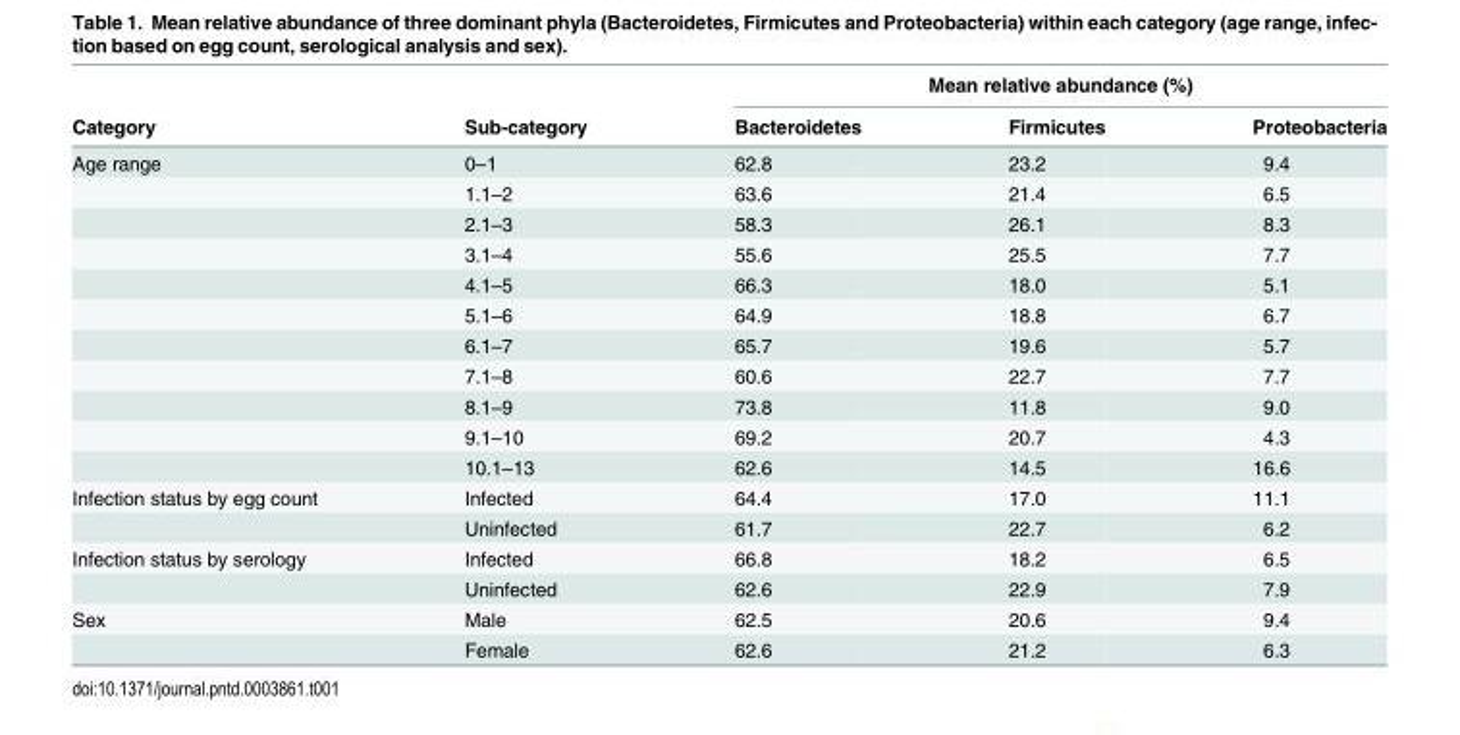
<table><thead><tr><td rowspan="2">Category</td><td rowspan="2">Sub-category</td><td colspan="3">Mean relative abundance (%)</td></tr><tr><td>Bacteroidetes</td><td>Firmicutes</td><td>Proteobacteria</td></tr></thead><tbody><tr><td rowspan="11">Age range</td><td>0–1</td><td>62.8</td><td>23.2</td><td>9.4</td></tr><tr><td>1.1–2</td><td>63.6</td><td>21.4</td><td>6.5</td></tr><tr><td>2.1–3</td><td>58.3</td><td>26.1</td><td>8.3</td></tr><tr><td>3.1–4</td><td>55.6</td><td>25.5</td><td>7.7</td></tr><tr><td>4.1–5</td><td>66.3</td><td>18.0</td><td>5.1</td></tr><tr><td>5.1–6</td><td>64.9</td><td>18.8</td><td>6.7</td></tr><tr><td>6.1–7</td><td>65.7</td><td>19.6</td><td>5.7</td></tr><tr><td>7.1–8</td><td>60.6</td><td>22.7</td><td>7.7</td></tr><tr><td>8.1–9</td><td>73.8</td><td>11.8</td><td>9.0</td></tr><tr><td>9.1–10</td><td>69.2</td><td>20.7</td><td>4.3</td></tr><tr><td>10.1–13</td><td>62.6</td><td>14.5</td><td>16.6</td></tr><tr><td rowspan="2">Infection status by egg count</td><td>Infected</td><td>64.4</td><td>17.0</td><td>11.1</td></tr><tr><td>Uninfected</td><td>61.7</td><td>22.7</td><td>6.2</td></tr><tr><td rowspan="2">Infection status by serology</td><td>Infected</td><td>66.8</td><td>18.2</td><td>6.5</td></tr><tr><td>Uninfected</td><td>62.6</td><td>22.9</td><td>7.9</td></tr><tr><td rowspan="2">Sex</td><td>Male</td><td>62.5</td><td>20.6</td><td>9.4</td></tr><tr><td>Female</td><td>62.6</td><td>21.2</td><td>6.3</td></tr></tbody></table>